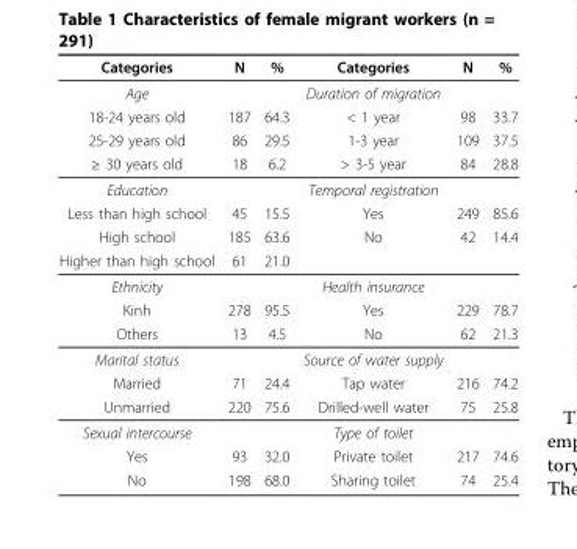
<table><thead><tr><td>Categories</td><td>N</td><td>%</td><td>Categories</td><td>N</td><td>%</td></tr></thead><tbody><tr><td>Age</td><td></td><td></td><td>Duration of migration</td><td></td><td></td></tr><tr><td>18-24 years old</td><td>187</td><td>64.3</td><td>&lt; 1 year</td><td>98</td><td>33.7</td></tr><tr><td>25-29 years old</td><td>86</td><td>29.5</td><td>1-3 year</td><td>109</td><td>37.5</td></tr><tr><td>≥ 30 years old</td><td>18</td><td>6.2</td><td>&gt; 3-5 year</td><td>84</td><td>28.8</td></tr><tr><td>Education</td><td></td><td></td><td>Temporal registration</td><td></td><td></td></tr><tr><td>Less than high school</td><td>45</td><td>15.5</td><td>Yes</td><td>249</td><td>85.6</td></tr><tr><td>High school</td><td>185</td><td>63.6</td><td>No</td><td>42</td><td>14.4</td></tr><tr><td>Higher than high school</td><td>61</td><td>21.0</td><td></td><td></td><td></td></tr><tr><td>Ethnicity</td><td></td><td></td><td>Health insurance</td><td></td><td></td></tr><tr><td>Kinh</td><td>278</td><td>95.5</td><td>Yes</td><td>229</td><td>78.7</td></tr><tr><td>Others</td><td>13</td><td>4.5</td><td>No</td><td>62</td><td>21.3</td></tr><tr><td>Marital status</td><td></td><td></td><td>Source of water supply</td><td></td><td></td></tr><tr><td>Married</td><td>71</td><td>24.4</td><td>Tap water</td><td>216</td><td>74.2</td></tr><tr><td>Unmarried</td><td>220</td><td>75.6</td><td>Drilled-well water</td><td>75</td><td>25.8</td></tr><tr><td>Sexual intercourse</td><td></td><td></td><td>Type of toilet</td><td></td><td></td></tr><tr><td>Yes</td><td>93</td><td>32.0</td><td>Private toilet</td><td>217</td><td>74.6</td></tr><tr><td>No</td><td>198</td><td>68.0</td><td>Sharing toilet</td><td>74</td><td>25.4</td></tr></tbody></table>